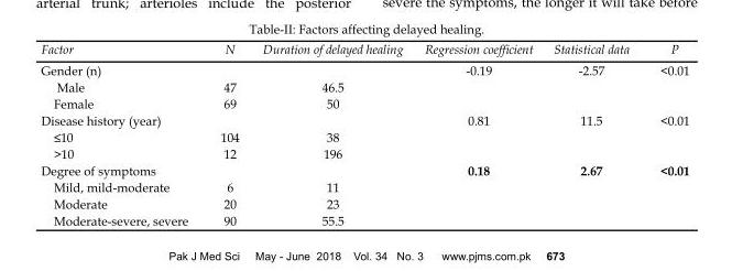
<table><thead><tr><td>Factor</td><td>N</td><td>Duration of delayed healing</td><td>Regression coefficient</td><td>Statistical data</td><td>P</td></tr></thead><tbody><tr><td>Gender (n)</td><td></td><td></td><td>-0.19</td><td>-2.57</td><td>&lt;0.01</td></tr><tr><td>Male</td><td>47</td><td>46.5</td><td></td><td></td><td></td></tr><tr><td>Female</td><td>69</td><td>50</td><td></td><td></td><td></td></tr><tr><td>Disease history (year)</td><td></td><td></td><td>0.81</td><td>11.5</td><td>&lt;0.01</td></tr><tr><td>≤10</td><td>104</td><td>38</td><td></td><td></td><td></td></tr><tr><td>&gt;10</td><td>12</td><td>196</td><td></td><td></td><td></td></tr><tr><td>Degree of symptoms</td><td></td><td></td><td>0.18</td><td>2.67</td><td>&lt;0.01</td></tr><tr><td>Mild, mild-moderate</td><td>6</td><td>11</td><td></td><td></td><td></td></tr><tr><td>Moderate</td><td>20</td><td>23</td><td></td><td></td><td></td></tr><tr><td>Moderate-severe, severe</td><td>90</td><td>55.5</td><td></td><td></td><td></td></tr></tbody></table>